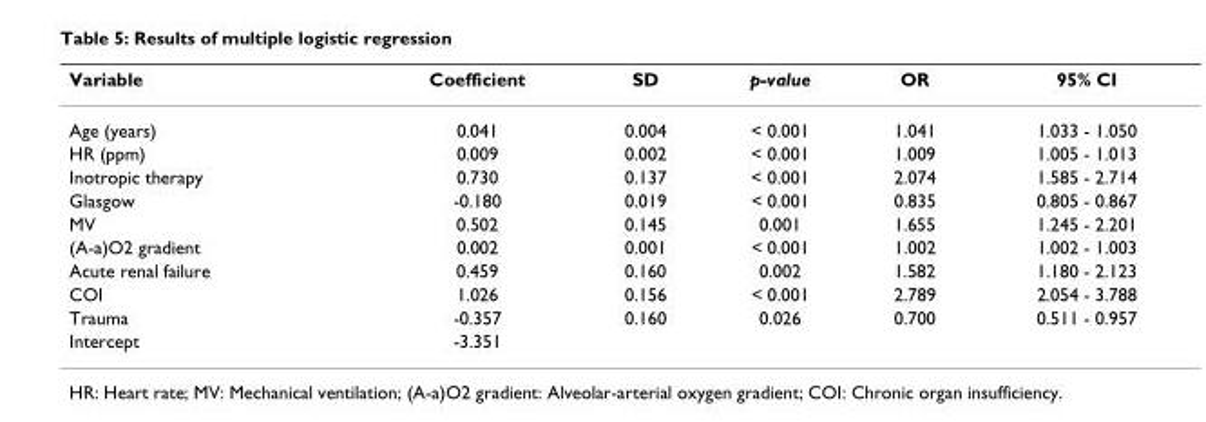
<table><thead><tr><td>Variable</td><td>Coefficient</td><td>SD</td><td>p-value</td><td>OR</td><td>95% CI</td></tr></thead><tbody><tr><td>Age (years)</td><td>0.041</td><td>0.004</td><td>&lt; 0.001</td><td>1.041</td><td>1.033 - 1.050</td></tr><tr><td>HR (ppm)</td><td>0.009</td><td>0.002</td><td>&lt; 0.001</td><td>1.009</td><td>1.005 - 1.013</td></tr><tr><td>Inotropic therapy</td><td>0.730</td><td>0.137</td><td>&lt; 0.001</td><td>2.074</td><td>1.585 - 2.714</td></tr><tr><td>Glasgow</td><td>-0.180</td><td>0.019</td><td>&lt; 0.001</td><td>0.835</td><td>0.805 - 0.867</td></tr><tr><td>MV</td><td>0.502</td><td>0.145</td><td>0.001</td><td>1.655</td><td>1.245 - 2.201</td></tr><tr><td>(A-a)O2 gradient</td><td>0.002</td><td>0.001</td><td>&lt; 0.001</td><td>1.002</td><td>1.002 - 1.003</td></tr><tr><td>Acute renal failure</td><td>0.459</td><td>0.160</td><td>0.002</td><td>1.582</td><td>1.180 - 2.123</td></tr><tr><td>COI</td><td>1.026</td><td>0.156</td><td>&lt; 0.001</td><td>2.789</td><td>2.054 - 3.788</td></tr><tr><td>Trauma</td><td>-0.357</td><td>0.160</td><td>0.026</td><td>0.700</td><td>0.511 - 0.957</td></tr><tr><td>Intercept</td><td>-3.351</td><td></td><td></td><td></td><td></td></tr></tbody></table>